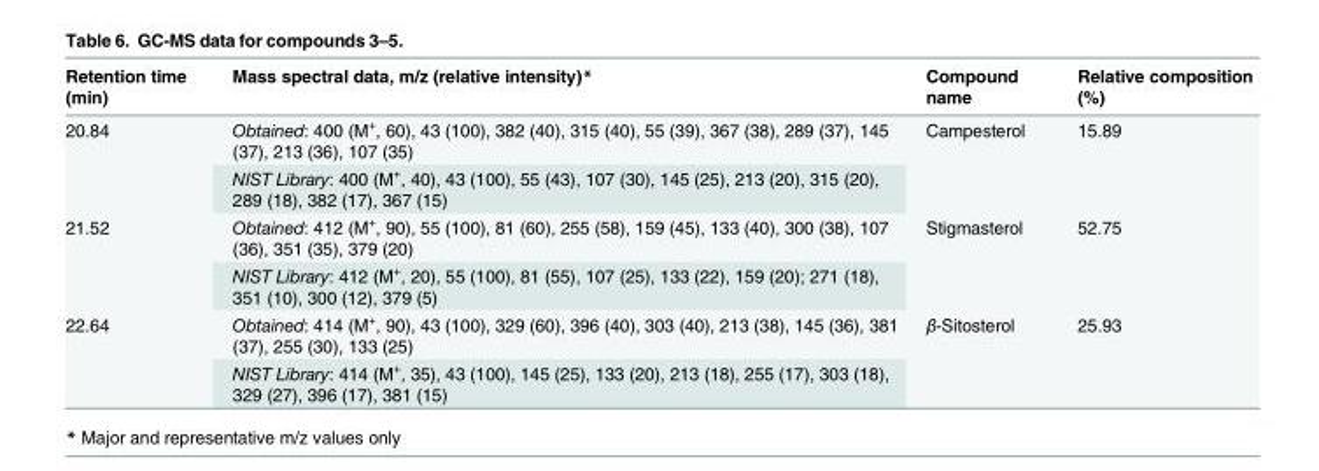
<table><thead><tr><td>Retention time (min)</td><td>Mass spectral data, m/z (relative intensity)*</td><td>Compound name</td><td>Relative composition (%)</td></tr></thead><tbody><tr><td rowspan="2">20.84</td><td>Obtained: 400 (M<sup>+</sup>, 60), 43 (100), 382 (40), 315 (40), 55 (39), 367 (38), 289 (37), 145 (37), 213 (36), 107 (35)</td><td rowspan="2">Campesterol</td><td rowspan="2">15.89</td></tr><tr><td>NIST Library: 400 (M<sup>+</sup>, 40), 43 (100), 55 (43), 107 (30), 145 (25), 213 (20), 315 (20), 289 (18), 382 (17), 367 (15)</td></tr><tr><td rowspan="2">21.52</td><td>Obtained: 412 (M<sup>+</sup>, 90), 55 (100), 81 (60), 255 (58), 159 (45), 133 (40), 300 (38), 107 (36), 351 (35), 379 (20)</td><td rowspan="2">Stigmasterol</td><td rowspan="2">52.75</td></tr><tr><td>NIST Library: 412 (M<sup>+</sup>, 20), 55 (100), 81 (55), 107 (25), 133 (22), 159 (20); 271 (18), 351 (10), 300 (12), 379 (5)</td></tr><tr><td rowspan="2">22.64</td><td>Obtained: 414 (M<sup>+</sup>, 90), 43 (100), 329 (60), 396 (40), 303 (40), 213 (38), 145 (36), 381 (37), 255 (30), 133 (25)</td><td rowspan="2">β-Sitosterol</td><td rowspan="2">25.93</td></tr><tr><td>NIST Library: 414 (M<sup>+</sup>, 35), 43 (100), 145 (25), 133 (20), 213 (18), 255 (17), 303 (18), 329 (27), 396 (17), 381 (15)</td></tr></tbody></table>